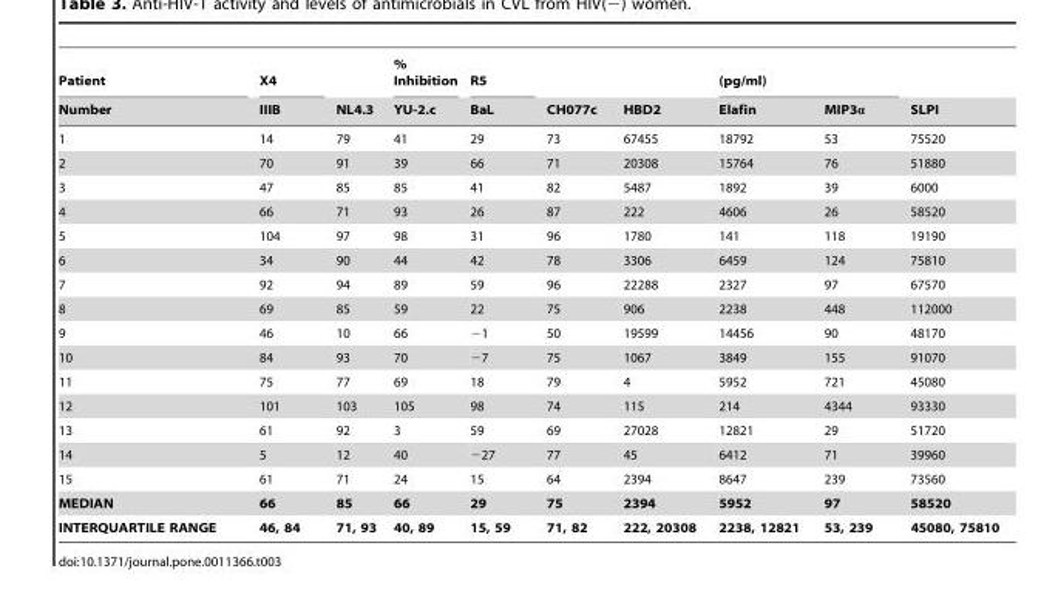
<table><thead><tr><td rowspan="2">Patient Number</td><td rowspan="2">X4 IIIB</td><td rowspan="2">NL4.3</td><td rowspan="2">% Inhibition YU-2.c</td><td rowspan="2">R5 BaL</td><td rowspan="2">CH077c</td><td rowspan="2">HBD2</td><td colspan="2">(pg/ml)</td><td rowspan="2">SLPI</td></tr><tr><td>Elafin</td><td>MIP3α</td></tr></thead><tbody><tr><td>1</td><td>14</td><td>79</td><td>41</td><td>29</td><td>73</td><td>67455</td><td>18792</td><td>53</td><td>75520</td></tr><tr><td>2</td><td>70</td><td>91</td><td>39</td><td>66</td><td>71</td><td>20308</td><td>15764</td><td>76</td><td>51880</td></tr><tr><td>3</td><td>47</td><td>85</td><td>85</td><td>41</td><td>82</td><td>5487</td><td>1892</td><td>39</td><td>6000</td></tr><tr><td>4</td><td>66</td><td>71</td><td>93</td><td>26</td><td>87</td><td>222</td><td>4606</td><td>26</td><td>58520</td></tr><tr><td>5</td><td>104</td><td>97</td><td>98</td><td>31</td><td>96</td><td>1780</td><td>141</td><td>118</td><td>19190</td></tr><tr><td>6</td><td>34</td><td>90</td><td>44</td><td>42</td><td>78</td><td>3306</td><td>6459</td><td>124</td><td>75810</td></tr><tr><td>7</td><td>92</td><td>94</td><td>89</td><td>59</td><td>96</td><td>22288</td><td>2327</td><td>97</td><td>67570</td></tr><tr><td>8</td><td>69</td><td>85</td><td>59</td><td>22</td><td>75</td><td>906</td><td>2238</td><td>448</td><td>112000</td></tr><tr><td>9</td><td>46</td><td>10</td><td>66</td><td>−1</td><td>50</td><td>19599</td><td>14456</td><td>90</td><td>48170</td></tr><tr><td>10</td><td>84</td><td>93</td><td>70</td><td>−7</td><td>75</td><td>1067</td><td>3849</td><td>155</td><td>91070</td></tr><tr><td>11</td><td>75</td><td>77</td><td>69</td><td>18</td><td>79</td><td>4</td><td>5952</td><td>721</td><td>45080</td></tr><tr><td>12</td><td>101</td><td>103</td><td>105</td><td>98</td><td>74</td><td>115</td><td>214</td><td>4344</td><td>93330</td></tr><tr><td>13</td><td>61</td><td>92</td><td>3</td><td>59</td><td>69</td><td>27028</td><td>12821</td><td>29</td><td>51720</td></tr><tr><td>14</td><td>5</td><td>12</td><td>40</td><td>−27</td><td>77</td><td>45</td><td>6412</td><td>71</td><td>39960</td></tr><tr><td>15</td><td>61</td><td>71</td><td>24</td><td>15</td><td>64</td><td>2394</td><td>8647</td><td>239</td><td>73560</td></tr><tr><td>MEDIAN</td><td>66</td><td>85</td><td>66</td><td>29</td><td>75</td><td>2394</td><td>5952</td><td>97</td><td>58520</td></tr><tr><td>INTERQUARTILE RANGE</td><td>46, 84</td><td>71, 93</td><td>40, 89</td><td>15, 59</td><td>71, 82</td><td>222, 20308</td><td>2238, 12821</td><td>53, 239</td><td>45080, 75810</td></tr></tbody></table>